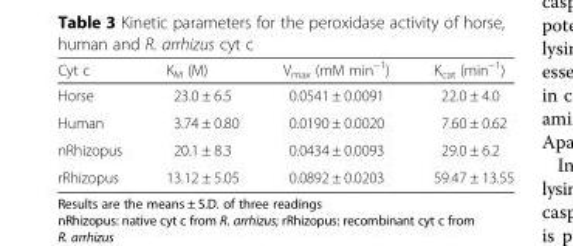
<table><thead><tr><td>Cyt c</td><td>K<sub>M</sub> (M)</td><td>V<sub>max</sub> (mM min<sup>−1</sup>)</td><td>K<sub>cat</sub> (min<sup>−1</sup>)</td></tr></thead><tbody><tr><td>Horse</td><td>23.0 ± 6.5</td><td>0.0541 ± 0.0091</td><td>22.0 ± 4.0</td></tr><tr><td>Human</td><td>3.74 ± 0.80</td><td>0.0190 ± 0.0020</td><td>7.60 ± 0.62</td></tr><tr><td>nRhizopus</td><td>20.1 ± 8.3</td><td>0.0434 ± 0.0093</td><td>29.0 ± 6.2</td></tr><tr><td>rRhizopus</td><td>13.12 ± 5.05</td><td>0.0892 ± 0.0203</td><td>59.47 ± 13.55</td></tr></tbody></table>